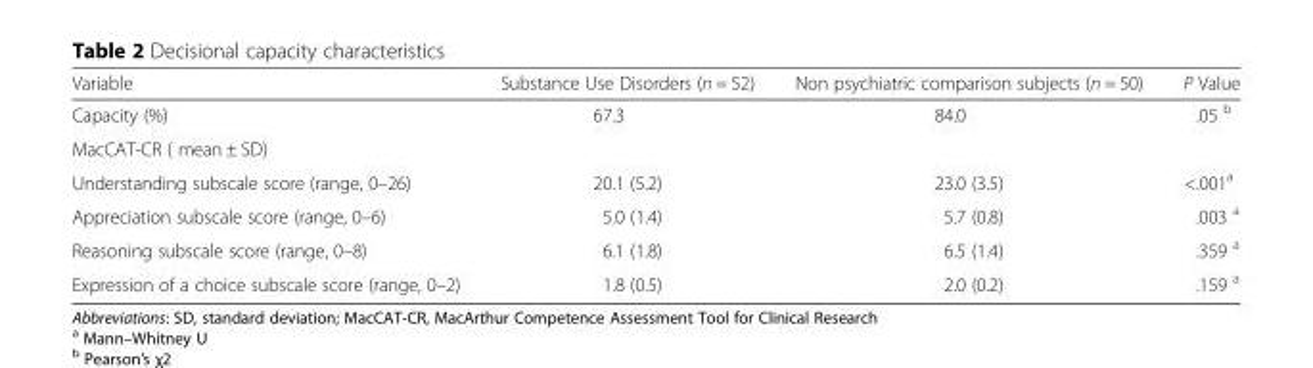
<table><thead><tr><td>Variable</td><td>Substance Use Disorders (n = 52)</td><td>Non psychiatric comparison subjects (n = 50)</td><td>P Value</td></tr></thead><tbody><tr><td>Capacity (%)</td><td>67.3</td><td>84.0</td><td>.05 <sup>b</sup></td></tr><tr><td colspan="4">MacCAT-CR ( mean ± SD)</td></tr><tr><td>Understanding subscale score (range, 0–26)</td><td>20.1 (5.2)</td><td>23.0 (3.5)</td><td>&lt;.001<sup>a</sup></td></tr><tr><td>Appreciation subscale score (range, 0–6)</td><td>5.0 (1.4)</td><td>5.7 (0.8)</td><td>.003 <sup>a</sup></td></tr><tr><td>Reasoning subscale score (range, 0–8)</td><td>6.1 (1.8)</td><td>6.5 (1.4)</td><td>.359 <sup>a</sup></td></tr><tr><td>Expression of a choice subscale score (range, 0–2)</td><td>1.8 (0.5)</td><td>2.0 (0.2)</td><td>.159 <sup>a</sup></td></tr></tbody></table>